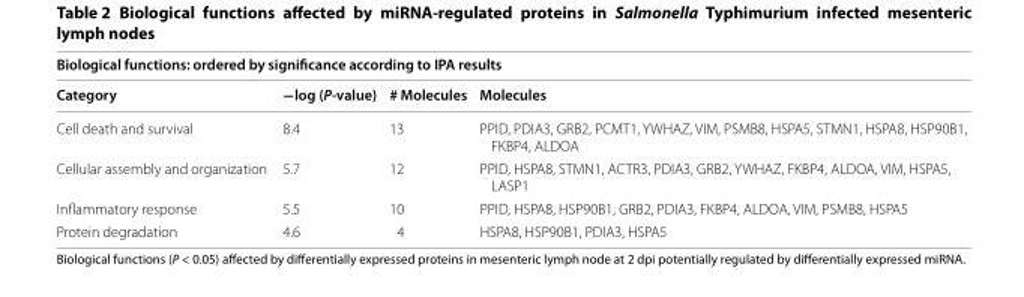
<table><thead><tr><td colspan="4">Biological functions: ordered by significance according to IPA results</td></tr><tr><td>Category</td><td>−log (P‑value)</td><td># Molecules</td><td>Molecules</td></tr></thead><tbody><tr><td>Cell death and survival</td><td>8.4</td><td>13</td><td>PPID, PDIA3, GRB2, PCMT1, YWHAZ, VIM, PSMB8, HSPA5, STMN1, HSPA8, HSP90B1, FKBP4, ALDOA</td></tr><tr><td>Cellular assembly and organization</td><td>5.7</td><td>12</td><td>PPID, HSPA8, STMN1, ACTR3, PDIA3, GRB2, YWHAZ, FKBP4, ALDOA, VIM, HSPA5, LASP1</td></tr><tr><td>Inflammatory response</td><td>5.5</td><td>10</td><td>PPID, HSPA8, HSP90B1, GRB2, PDIA3, FKBP4, ALDOA, VIM, PSMB8, HSPA5</td></tr><tr><td>Protein degradation</td><td>4.6</td><td>4</td><td>HSPA8, HSP90B1, PDIA3, HSPA5</td></tr></tbody></table>